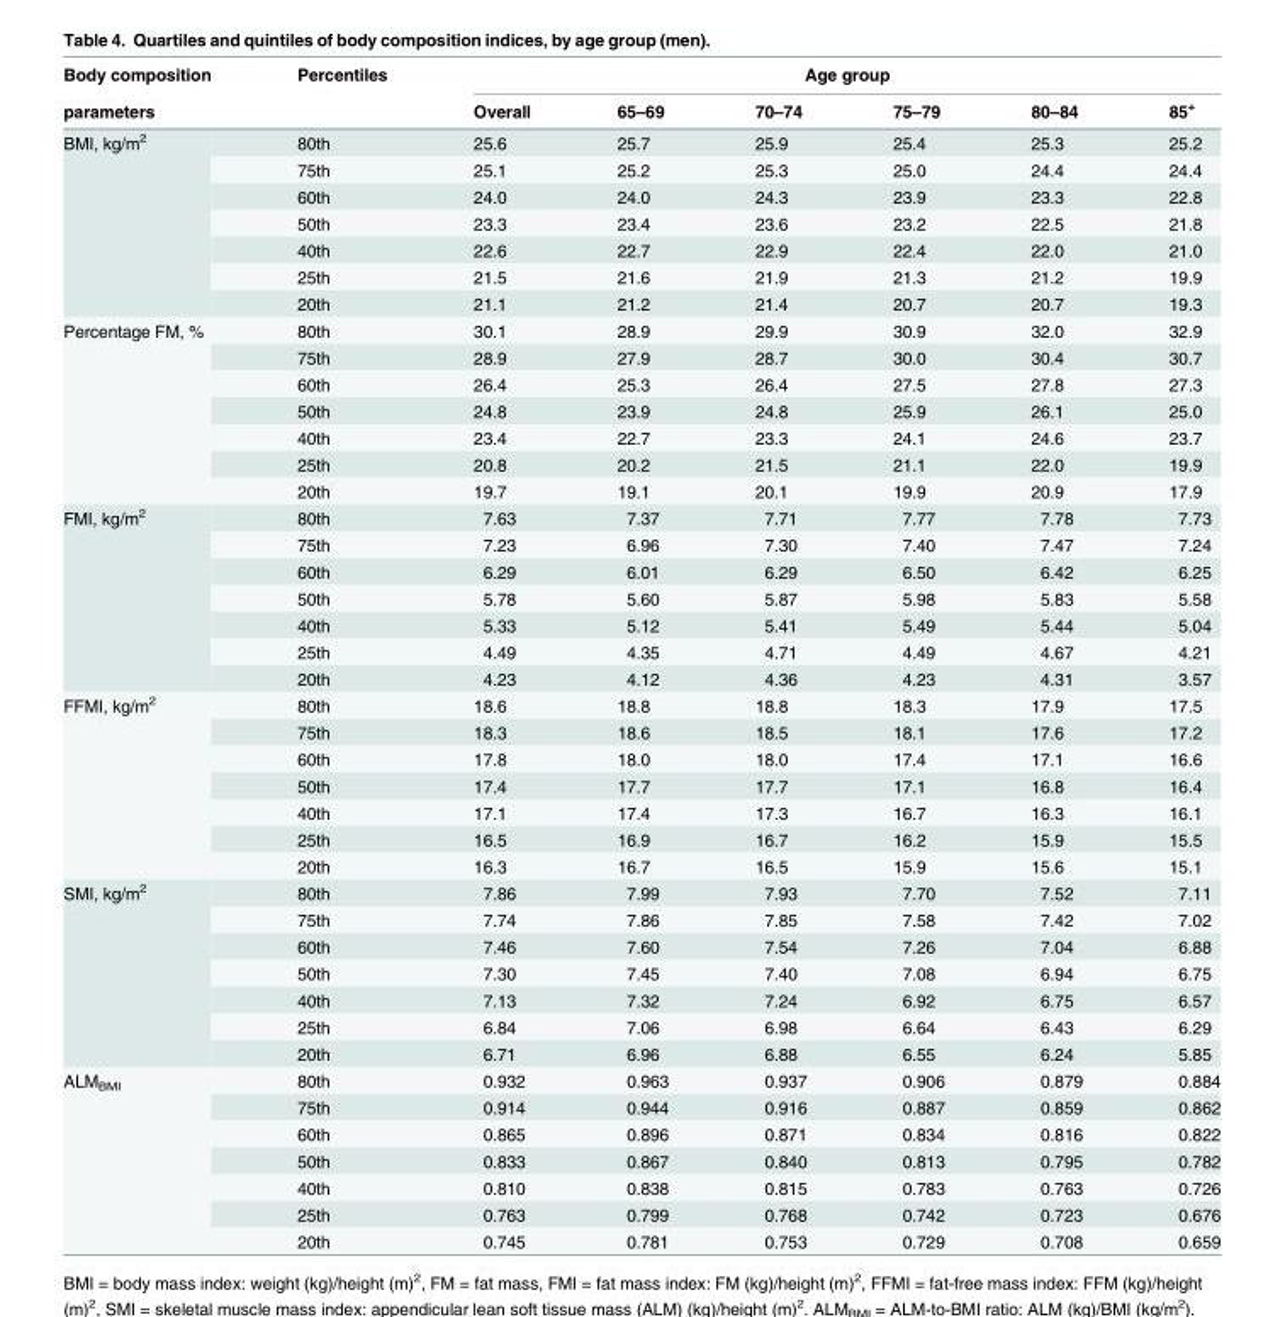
<table><thead><tr><td rowspan="2">Body composition parameters</td><td rowspan="2">Percentiles</td><td colspan="6">Age group</td></tr><tr><td>Overall</td><td>65–69</td><td>70–74</td><td>75–79</td><td>80–84</td><td>85<sup>+</sup></td></tr></thead><tbody><tr><td rowspan="7">BMI, kg/m<sup>2</sup></td><td>80th</td><td>25.6</td><td>25.7</td><td>25.9</td><td>25.4</td><td>25.3</td><td>25.2</td></tr><tr><td>75th</td><td>25.1</td><td>25.2</td><td>25.3</td><td>25.0</td><td>24.4</td><td>24.4</td></tr><tr><td>60th</td><td>24.0</td><td>24.0</td><td>24.3</td><td>23.9</td><td>23.3</td><td>22.8</td></tr><tr><td>50th</td><td>23.3</td><td>23.4</td><td>23.6</td><td>23.2</td><td>22.5</td><td>21.8</td></tr><tr><td>40th</td><td>22.6</td><td>22.7</td><td>22.9</td><td>22.4</td><td>22.0</td><td>21.0</td></tr><tr><td>25th</td><td>21.5</td><td>21.6</td><td>21.9</td><td>21.3</td><td>21.2</td><td>19.9</td></tr><tr><td>20th</td><td>21.1</td><td>21.2</td><td>21.4</td><td>20.7</td><td>20.7</td><td>19.3</td></tr><tr><td rowspan="7">Percentage FM, %</td><td>80th</td><td>30.1</td><td>28.9</td><td>29.9</td><td>30.9</td><td>32.0</td><td>32.9</td></tr><tr><td>75th</td><td>28.9</td><td>27.9</td><td>28.7</td><td>30.0</td><td>30.4</td><td>30.7</td></tr><tr><td>60th</td><td>26.4</td><td>25.3</td><td>26.4</td><td>27.5</td><td>27.8</td><td>27.3</td></tr><tr><td>50th</td><td>24.8</td><td>23.9</td><td>24.8</td><td>25.9</td><td>26.1</td><td>25.0</td></tr><tr><td>40th</td><td>23.4</td><td>22.7</td><td>23.3</td><td>24.1</td><td>24.6</td><td>23.7</td></tr><tr><td>25th</td><td>20.8</td><td>20.2</td><td>21.5</td><td>21.1</td><td>22.0</td><td>19.9</td></tr><tr><td>20th</td><td>19.7</td><td>19.1</td><td>20.1</td><td>19.9</td><td>20.9</td><td>17.9</td></tr><tr><td rowspan="7">FMI, kg/m<sup>2</sup></td><td>80th</td><td>7.63</td><td>7.37</td><td>7.71</td><td>7.77</td><td>7.78</td><td>7.73</td></tr><tr><td>75th</td><td>7.23</td><td>6.96</td><td>7.30</td><td>7.40</td><td>7.47</td><td>7.24</td></tr><tr><td>60th</td><td>6.29</td><td>6.01</td><td>6.29</td><td>6.50</td><td>6.42</td><td>6.25</td></tr><tr><td>50th</td><td>5.78</td><td>5.60</td><td>5.87</td><td>5.98</td><td>5.83</td><td>5.58</td></tr><tr><td>40th</td><td>5.33</td><td>5.12</td><td>5.41</td><td>5.49</td><td>5.44</td><td>5.04</td></tr><tr><td>25th</td><td>4.49</td><td>4.35</td><td>4.71</td><td>4.49</td><td>4.67</td><td>4.21</td></tr><tr><td>20th</td><td>4.23</td><td>4.12</td><td>4.36</td><td>4.23</td><td>4.31</td><td>3.57</td></tr><tr><td rowspan="7">FFMI, kg/m<sup>2</sup></td><td>80th</td><td>18.6</td><td>18.8</td><td>18.8</td><td>18.3</td><td>17.9</td><td>17.5</td></tr><tr><td>75th</td><td>18.3</td><td>18.6</td><td>18.5</td><td>18.1</td><td>17.6</td><td>17.2</td></tr><tr><td>60th</td><td>17.8</td><td>18.0</td><td>18.0</td><td>17.4</td><td>17.1</td><td>16.6</td></tr><tr><td>50th</td><td>17.4</td><td>17.7</td><td>17.7</td><td>17.1</td><td>16.8</td><td>16.4</td></tr><tr><td>40th</td><td>17.1</td><td>17.4</td><td>17.3</td><td>16.7</td><td>16.3</td><td>16.1</td></tr><tr><td>25th</td><td>16.5</td><td>16.9</td><td>16.7</td><td>16.2</td><td>15.9</td><td>15.5</td></tr><tr><td>20th</td><td>16.3</td><td>16.7</td><td>16.5</td><td>15.9</td><td>15.6</td><td>15.1</td></tr><tr><td rowspan="7">SMI, kg/m<sup>2</sup></td><td>80th</td><td>7.86</td><td>7.99</td><td>7.93</td><td>7.70</td><td>7.52</td><td>7.11</td></tr><tr><td>75th</td><td>7.74</td><td>7.86</td><td>7.85</td><td>7.58</td><td>7.42</td><td>7.02</td></tr><tr><td>60th</td><td>7.46</td><td>7.60</td><td>7.54</td><td>7.26</td><td>7.04</td><td>6.88</td></tr><tr><td>50th</td><td>7.30</td><td>7.45</td><td>7.40</td><td>7.08</td><td>6.94</td><td>6.75</td></tr><tr><td>40th</td><td>7.13</td><td>7.32</td><td>7.24</td><td>6.92</td><td>6.75</td><td>6.57</td></tr><tr><td>25th</td><td>6.84</td><td>7.06</td><td>6.98</td><td>6.64</td><td>6.43</td><td>6.29</td></tr><tr><td>20th</td><td>6.71</td><td>6.96</td><td>6.88</td><td>6.55</td><td>6.24</td><td>5.85</td></tr><tr><td rowspan="7">ALM<sub>BMI</sub></td><td>80th</td><td>0.932</td><td>0.963</td><td>0.937</td><td>0.906</td><td>0.879</td><td>0.884</td></tr><tr><td>75th</td><td>0.914</td><td>0.944</td><td>0.916</td><td>0.887</td><td>0.859</td><td>0.862</td></tr><tr><td>60th</td><td>0.865</td><td>0.896</td><td>0.871</td><td>0.834</td><td>0.816</td><td>0.822</td></tr><tr><td>50th</td><td>0.833</td><td>0.867</td><td>0.840</td><td>0.813</td><td>0.795</td><td>0.782</td></tr><tr><td>40th</td><td>0.810</td><td>0.838</td><td>0.815</td><td>0.783</td><td>0.763</td><td>0.726</td></tr><tr><td>25th</td><td>0.763</td><td>0.799</td><td>0.768</td><td>0.742</td><td>0.723</td><td>0.676</td></tr><tr><td>20th</td><td>0.745</td><td>0.781</td><td>0.753</td><td>0.729</td><td>0.708</td><td>0.659</td></tr></tbody></table>